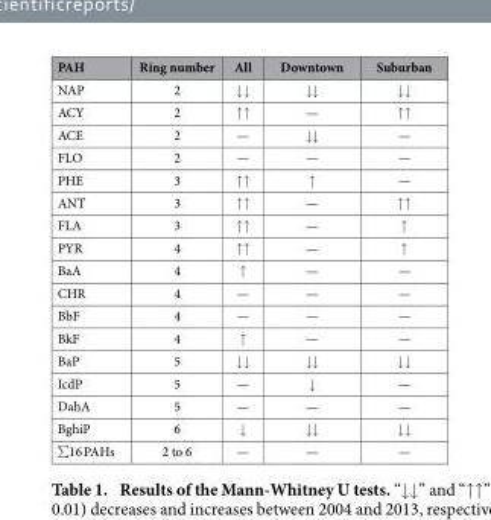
<table><thead><tr><td>PAH</td><td>Ring number</td><td>All</td><td>Downtown</td><td>Suburban</td></tr></thead><tbody><tr><td>NAP</td><td>2</td><td>↓ ↓</td><td>↓ ↓</td><td>↓ ↓</td></tr><tr><td>ACY</td><td>2</td><td>↑ ↑</td><td>—</td><td>↑ ↑</td></tr><tr><td>ACE</td><td>2</td><td>—</td><td>↓ ↓</td><td>—</td></tr><tr><td>FLO</td><td>2</td><td>—</td><td>—</td><td>—</td></tr><tr><td>PHE</td><td>3</td><td>↑ ↑</td><td>↑</td><td>—</td></tr><tr><td>ANT</td><td>3</td><td>↑ ↑</td><td>—</td><td>↑ ↑</td></tr><tr><td>FLA</td><td>3</td><td>↑ ↑</td><td>—</td><td>↑</td></tr><tr><td>PYR</td><td>4</td><td>↑ ↑</td><td>—</td><td>↑</td></tr><tr><td>BaA</td><td>4</td><td>↑</td><td>—</td><td>—</td></tr><tr><td>CHR</td><td>4</td><td>—</td><td>—</td><td>—</td></tr><tr><td>BbF</td><td>4</td><td>—</td><td>—</td><td>—</td></tr><tr><td>BkF</td><td>4</td><td>↑</td><td>—</td><td>—</td></tr><tr><td>BaP</td><td>5</td><td>↓ ↓</td><td>↓ ↓</td><td>↓ ↓</td></tr><tr><td>IcdP</td><td>5</td><td>—</td><td>↓</td><td>—</td></tr><tr><td>DahA</td><td>5</td><td>—</td><td>—</td><td>—</td></tr><tr><td>BghiP</td><td>6</td><td>↓</td><td>↓ ↓</td><td>↓ ↓</td></tr><tr><td>∑ 16 PAHs</td><td>2 to 6</td><td>—</td><td>—</td><td>—</td></tr></tbody></table>